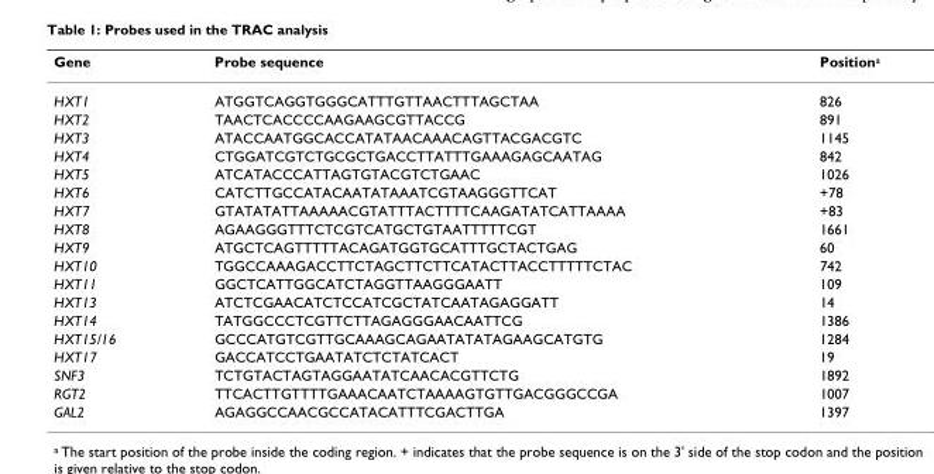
<table><thead><tr><td>Gene</td><td>Probe sequence</td><td>Position<sup>a</sup></td></tr></thead><tbody><tr><td>HXT1</td><td>ATGGTCAGGTGGGCATTTGTTAACTTTAGCTAA</td><td>826</td></tr><tr><td>HXT2</td><td>TAACTCACCCCAAGAAGCGTTACCG</td><td>891</td></tr><tr><td>HXT3</td><td>ATACCAATGGCACCATATAACAAACAGTTACGACGTC</td><td>1145</td></tr><tr><td>HXT4</td><td>CTGGATCGTCTGCGCTGACCTTATTTGAAAGAGCAATAG</td><td>842</td></tr><tr><td>HXT5</td><td>ATCATACCCATTAGTGTACGTCTGAAC</td><td>1026</td></tr><tr><td>HXT6</td><td>CATCTTGCCATACAATATAAATCGTAAGGGTTCAT</td><td>+78</td></tr><tr><td>HXT7</td><td>GTATATATTAAAAACGTATTTACTTTTCAAGATATCATTAAAA</td><td>+83</td></tr><tr><td>HXT8</td><td>AGAAGGGTTTCTCGTCATGCTGTAATTTTTCGT</td><td>1661</td></tr><tr><td>HXT9</td><td>ATGCTCAGTTTTTACAGATGGTGCATTTGCTACTGAG</td><td>60</td></tr><tr><td>HXT10</td><td>TGGCCAAAGACCTTCTAGCTTCTTCATACTTACCTTTTTCTAC</td><td>742</td></tr><tr><td>HXT11</td><td>GGCTCATTGGCATCTAGGTTAAGGGAATT</td><td>109</td></tr><tr><td>HXT13</td><td>ATCTCGAACATCTCCATCGCTATCAATAGAGGATT</td><td>14</td></tr><tr><td>HXT14</td><td>TATGGCCCTCGTTCTTAGAGGGAACAATTCG</td><td>1386</td></tr><tr><td>HXT15/16</td><td>GCCCATGTCGTTGCAAAGCAGAATATATAGAAGCATGTG</td><td>1284</td></tr><tr><td>HXT17</td><td>GACCATCCTGAATATCTCTATCACT</td><td>19</td></tr><tr><td>SNF3</td><td>TCTGTACTAGTAGGAATATCAACACGTTCTG</td><td>1892</td></tr><tr><td>RGT2</td><td>TTCACTTGTTTTGAAACAATCTAAAAGTGTTGACGGGCCGA</td><td>1007</td></tr><tr><td>GAL2</td><td>AGAGGCCAACGCCATACATTTCGACTTGA</td><td>1397</td></tr></tbody></table>